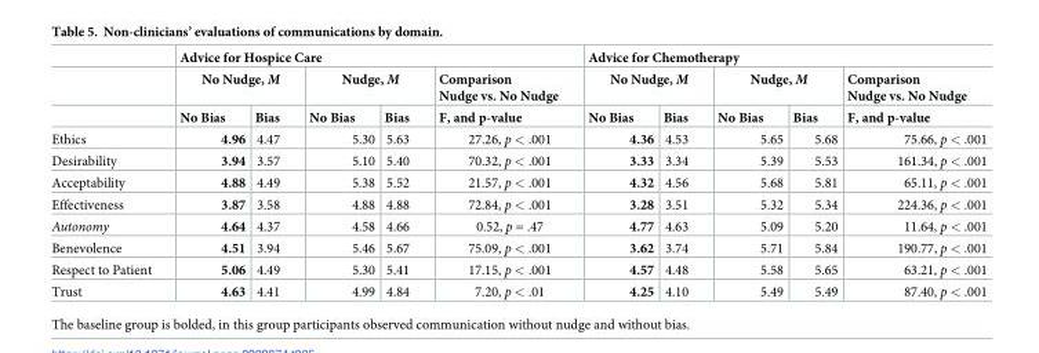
<table><thead><tr><td rowspan="3"></td><td colspan="5">Advice for Hospice Care</td><td colspan="5">Advice for Chemotherapy</td></tr><tr><td colspan="2">No Nudge, M</td><td colspan="2">Nudge, M</td><td rowspan="2">Comparison Nudge vs. No Nudge F, and p-value</td><td colspan="2">No Nudge, M</td><td colspan="2">Nudge, M</td><td rowspan="2">Comparison Nudge vs. No Nudge F, and p-value</td></tr><tr><td>No Bias</td><td>Bias</td><td>No Bias</td><td>Bias</td><td>No Bias</td><td>Bias</td><td>No Bias</td><td>Bias</td></tr></thead><tbody><tr><td>Ethics</td><td>4.96</td><td>4.47</td><td>5.30</td><td>5.63</td><td>27.26, p &lt; .001</td><td>4.36</td><td>4.53</td><td>5.65</td><td>5.68</td><td>75.66, p &lt; .001</td></tr><tr><td>Desirability</td><td>3.94</td><td>3.57</td><td>5.10</td><td>5.40</td><td>70.32, p &lt; .001</td><td>3.33</td><td>3.34</td><td>5.39</td><td>5.53</td><td>161.34, p &lt; .001</td></tr><tr><td>Acceptability</td><td>4.88</td><td>4.49</td><td>5.38</td><td>5.52</td><td>21.57, p &lt; .001</td><td>4.32</td><td>4.56</td><td>5.68</td><td>5.81</td><td>65.11, p &lt; .001</td></tr><tr><td>Effectiveness</td><td>3.87</td><td>3.58</td><td>4.88</td><td>4.88</td><td>72.84, p &lt; .001</td><td>3.28</td><td>3.51</td><td>5.32</td><td>5.34</td><td>224.36, p &lt; .001</td></tr><tr><td>Autonomy</td><td>4.64</td><td>4.37</td><td>4.58</td><td>4.66</td><td>0.52, p = .47</td><td>4.77</td><td>4.63</td><td>5.09</td><td>5.20</td><td>11.64, p &lt; .001</td></tr><tr><td>Benevolence</td><td>4.51</td><td>3.94</td><td>5.46</td><td>5.67</td><td>75.09, p &lt; .001</td><td>3.62</td><td>3.74</td><td>5.71</td><td>5.84</td><td>190.77, p &lt; .001</td></tr><tr><td>Respect to Patient</td><td>5.06</td><td>4.49</td><td>5.30</td><td>5.41</td><td>17.15, p &lt; .001</td><td>4.57</td><td>4.48</td><td>5.58</td><td>5.65</td><td>63.21, p &lt; .001</td></tr><tr><td>Trust</td><td>4.63</td><td>4.41</td><td>4.99</td><td>4.84</td><td>7.20, p &lt; .01</td><td>4.25</td><td>4.10</td><td>5.49</td><td>5.49</td><td>87.40, p &lt; .001</td></tr></tbody></table>